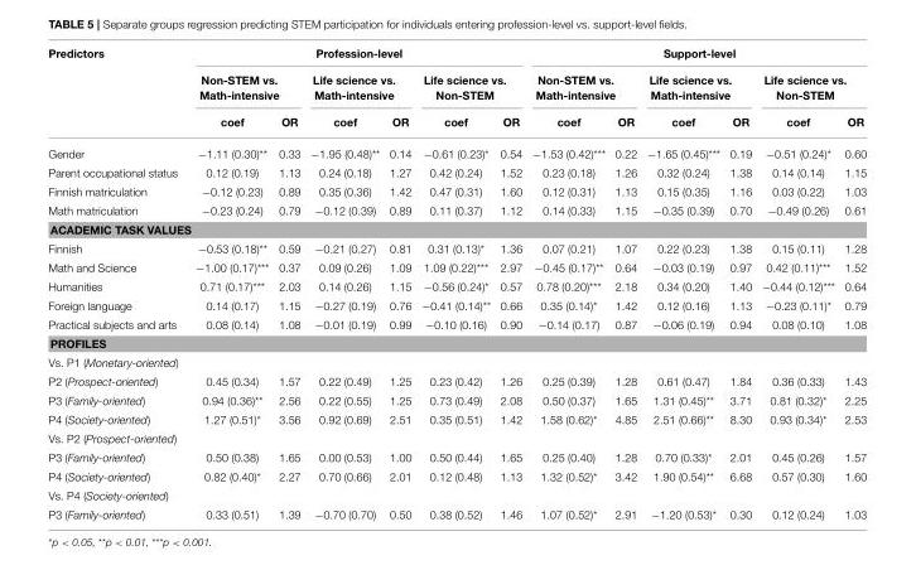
<table><thead><tr><td rowspan="3">Predictors</td><td colspan="6">Profession-level</td><td colspan="6">Support-level</td></tr><tr><td colspan="2">Non-STEM vs. Math-intensive</td><td colspan="2">Life science vs. Math-intensive</td><td colspan="2">Life science vs. Non-STEM</td><td colspan="2">Non-STEM vs. Math-intensive</td><td colspan="2">Life science vs. Math-intensive</td><td colspan="2">Life science vs. Non-STEM</td></tr><tr><td>coef</td><td>OR</td><td>coef</td><td>OR</td><td>coef</td><td>OR</td><td>coef</td><td>OR</td><td>coef</td><td>OR</td><td>coef</td><td>OR</td></tr></thead><tbody><tr><td>Gender</td><td>−1.11 (0.30)**</td><td>0.33</td><td>−1.95 (0.48)**</td><td>0.14</td><td>−0.61 (0.23)*</td><td>0.54</td><td>−1.53 (0.42)***</td><td>0.22</td><td>−1.65 (0.45)***</td><td>0.19</td><td>−0.51 (0.24)*</td><td>0.60</td></tr><tr><td>Parent occupational status</td><td>0.12 (0.19)</td><td>1.13</td><td>0.24 (0.18)</td><td>1.27</td><td>0.42 (0.24)</td><td>1.52</td><td>0.23 (0.18)</td><td>1.26</td><td>0.32 (0.24)</td><td>1.38</td><td>0.14 (0.14)</td><td>1.15</td></tr><tr><td>Finnish matriculation</td><td>−0.12 (0.23)</td><td>0.89</td><td>0.35 (0.36)</td><td>1.42</td><td>0.47 (0.31)</td><td>1.60</td><td>0.12 (0.31)</td><td>1.13</td><td>0.15 (0.35)</td><td>1.16</td><td>0.03 (0.22)</td><td>1.03</td></tr><tr><td>Math matriculation</td><td>−0.23 (0.24)</td><td>0.79</td><td>−0.12 (0.39)</td><td>0.89</td><td>0.11 (0.37)</td><td>1.12</td><td>0.14 (0.33)</td><td>1.15</td><td>−0.35 (0.39)</td><td>0.70</td><td>−0.49 (0.26)</td><td>0.61</td></tr><tr><td colspan="13">ACADEMIC TASK VALUES</td></tr><tr><td>Finnish</td><td>−0.53 (0.18)**</td><td>0.59</td><td>−0.21 (0.27)</td><td>0.81</td><td>0.31 (0.13)*</td><td>1.36</td><td>0.07 (0.21)</td><td>1.07</td><td>0.22 (0.23)</td><td>1.38</td><td>0.15 (0.11)</td><td>1.28</td></tr><tr><td>Math and Science</td><td>−1.00 (0.17)***</td><td>0.37</td><td>0.09 (0.26)</td><td>1.09</td><td>1.09 (0.22)***</td><td>2.97</td><td>−0.45 (0.17)**</td><td>0.64</td><td>−0.03 (0.19)</td><td>0.97</td><td>0.42 (0.11)***</td><td>1.52</td></tr><tr><td>Humanities</td><td>0.71 (0.17)***</td><td>2.03</td><td>0.14 (0.26)</td><td>1.15</td><td>−0.56 (0.24)*</td><td>0.57</td><td>0.78 (0.20)***</td><td>2.18</td><td>0.34 (0.20)</td><td>1.40</td><td>−0.44 (0.12)***</td><td>0.64</td></tr><tr><td>Foreign language</td><td>0.14 (0.17)</td><td>1.15</td><td>−0.27 (0.19)</td><td>0.76</td><td>−0.41 (0.14)**</td><td>0.66</td><td>0.35 (0.14)*</td><td>1.42</td><td>0.12 (0.16)</td><td>1.13</td><td>−0.23 (0.11)*</td><td>0.79</td></tr><tr><td>Practical subjects and arts</td><td>0.08 (0.14)</td><td>1.08</td><td>−0.01 (0.19)</td><td>0.99</td><td>−0.10 (0.16)</td><td>0.90</td><td>−0.14 (0.17)</td><td>0.87</td><td>−0.06 (0.19)</td><td>0.94</td><td>0.08 (0.10)</td><td>1.08</td></tr><tr><td colspan="13">PROFILES</td></tr><tr><td colspan="13">Vs. P1 (Monetary-oriented)</td></tr><tr><td>P2 (Prospect-oriented)</td><td>0.45 (0.34)</td><td>1.57</td><td>0.22 (0.49)</td><td>1.25</td><td>0.23 (0.42)</td><td>1.26</td><td>0.25 (0.39)</td><td>1.28</td><td>0.61 (0.47)</td><td>1.84</td><td>0.36 (0.33)</td><td>1.43</td></tr><tr><td>P3 (Family-oriented)</td><td>0.94 (0.36)**</td><td>2.56</td><td>0.22 (0.55)</td><td>1.25</td><td>0.73 (0.49)</td><td>2.08</td><td>0.50 (0.37)</td><td>1.65</td><td>1.31 (0.45)**</td><td>3.71</td><td>0.81 (0.32)*</td><td>2.25</td></tr><tr><td>P4 (Society-oriented)</td><td>1.27 (0.51)*</td><td>3.56</td><td>0.92 (0.69)</td><td>2.51</td><td>0.35 (0.51)</td><td>1.42</td><td>1.58 (0.62)*</td><td>4.85</td><td>2.51 (0.66)**</td><td>8.30</td><td>0.93 (0.34)*</td><td>2.53</td></tr><tr><td colspan="13">Vs. P2 (Prospect-oriented)</td></tr><tr><td>P3 (Family-oriented)</td><td>0.50 (0.38)</td><td>1.65</td><td>0.00 (0.53)</td><td>1.00</td><td>0.50 (0.44)</td><td>1.65</td><td>0.25 (0.40)</td><td>1.28</td><td>0.70 (0.33)*</td><td>2.01</td><td>0.45 (0.26)</td><td>1.57</td></tr><tr><td>P4 (Society-oriented)</td><td>0.82 (0.40)*</td><td>2.27</td><td>0.70 (0.66)</td><td>2.01</td><td>0.12 (0.48)</td><td>1.13</td><td>1.32 (0.52)*</td><td>3.42</td><td>1.90 (0.54)**</td><td>6.68</td><td>0.57 (0.30)</td><td>1.60</td></tr><tr><td colspan="13">Vs. P4 (Society-oriented)</td></tr><tr><td>P3 (Family-oriented)</td><td>0.33 (0.51)</td><td>1.39</td><td>−0.70 (0.70)</td><td>0.50</td><td>0.38 (0.52)</td><td>1.46</td><td>1.07 (0.52)*</td><td>2.91</td><td>−1.20 (0.53)*</td><td>0.30</td><td>0.12 (0.24)</td><td>1.03</td></tr></tbody></table>